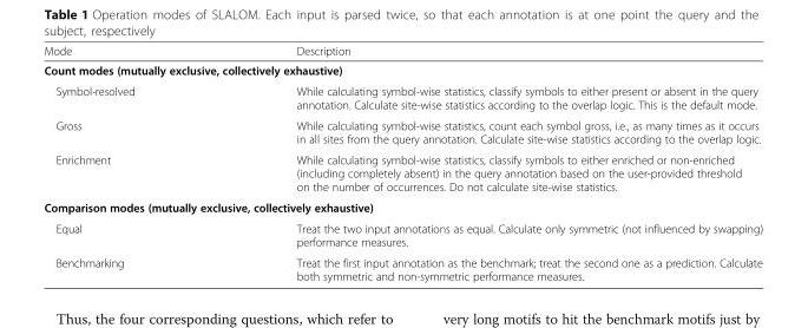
<table><thead><tr><td>Mode</td><td>Description</td></tr></thead><tbody><tr><td colspan="2">Count modes (mutually exclusive, collectively exhaustive)</td></tr><tr><td>Symbol-resolved</td><td>While calculating symbol-wise statistics, classify symbols to either present or absent in the query annotation. Calculate site-wise statistics according to the overlap logic. This is the default mode.</td></tr><tr><td>Gross</td><td>While calculating symbol-wise statistics, count each symbol gross, i.e., as many times as it occurs in all sites from the query annotation. Calculate site-wise statistics according to the overlap logic.</td></tr><tr><td>Enrichment</td><td>While calculating symbol-wise statistics, classify symbols to either enriched or non-enriched (including completely absent) in the query annotation based on the user-provided threshold on the number of occurrences. Do not calculate site-wise statistics.</td></tr><tr><td colspan="2">Comparison modes (mutually exclusive, collectively exhaustive)</td></tr><tr><td>Equal</td><td>Treat the two input annotations as equal. Calculate only symmetric (not influenced by swapping) performance measures.</td></tr><tr><td>Benchmarking</td><td>Treat the first input annotation as the benchmark; treat the second one as a prediction. Calculate both symmetric and non-symmetric performance measures.</td></tr></tbody></table>